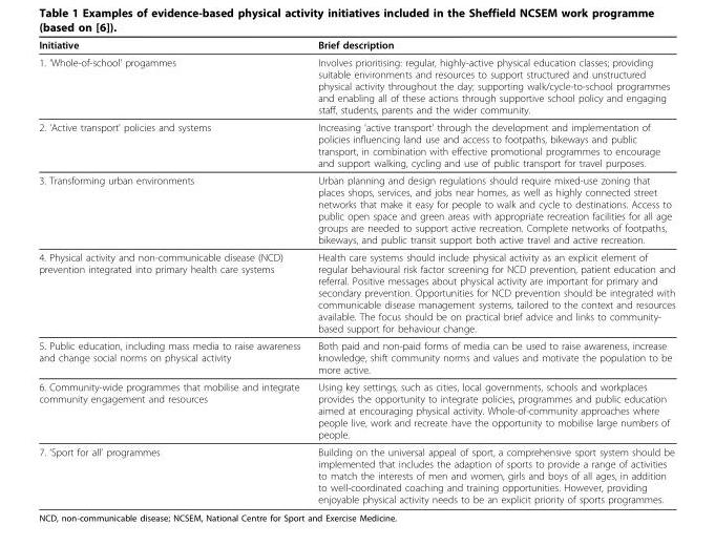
<table><thead><tr><td>Initiative</td><td>Brief description</td></tr></thead><tbody><tr><td>1. ‘Whole-of-school’ progammes</td><td>Involves prioritising: regular, highly-active physical education classes; providing suitable environments and resources to support structured and unstructured physical activity throughout the day; supporting walk/cycle-to-school programmes and enabling all of these actions through supportive school policy and engaging staff, students, parents and the wider community.</td></tr><tr><td>2. ‘Active transport’ policies and systems</td><td>Increasing ‘active transport’ through the development and implementation of policies influencing land use and access to footpaths, bikeways and public transport, in combination with effective promotional programmes to encourage and support walking, cycling and use of public transport for travel purposes.</td></tr><tr><td>3. Transforming urban environments</td><td>Urban planning and design regulations should require mixed-use zoning that places shops, services, and jobs near homes, as well as highly connected street networks that make it easy for people to walk and cycle to destinations. Access to public open space and green areas with appropriate recreation facilities for all age groups are needed to support active recreation. Complete networks of footpaths, bikeways, and public transit support both active travel and active recreation.</td></tr><tr><td>4. Physical activity and non-communicable disease (NCD) prevention integrated into primary health care systems</td><td>Health care systems should include physical activity as an explicit element of regular behavioural risk factor screening for NCD prevention, patient education and referral. Positive messages about physical activity are important for primary and secondary prevention. Opportunities for NCD prevention should be integrated with communicable disease management systems, tailored to the context and resources available. The focus should be on practical brief advice and links to community- based support for behaviour change.</td></tr><tr><td>5. Public education, including mass media to raise awareness and change social norms on physical activity</td><td>Both paid and non-paid forms of media can be used to raise awareness, increase knowledge, shift community norms and values and motivate the population to be more active.</td></tr><tr><td>6. Community-wide programmes that mobilise and integrate community engagement and resources</td><td>Using key settings, such as cities, local governments, schools and workplaces provides the opportunity to integrate policies, programmes and public education aimed at encouraging physical activity. Whole-of-community approaches where people live, work and recreate have the opportunity to mobilise large numbers of people.</td></tr><tr><td>7. ‘Sport for all’ programmes</td><td>Building on the universal appeal of sport, a comprehensive sport system should be implemented that includes the adaption of sports to provide a range of activities to match the interests of men and women, girls and boys of all ages, in addition to well-coordinated coaching and training opportunities. However, providing enjoyable physical activity needs to be an explicit priority of sports programmes.</td></tr></tbody></table>